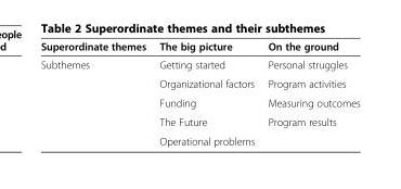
<table><thead><tr><td>Superordinate themes</td><td>The big picture</td><td>On the ground</td></tr></thead><tbody><tr><td rowspan="5">Subthemes</td><td>Getting started</td><td>Personal struggles</td></tr><tr><td>Organizational factors</td><td>Program activities</td></tr><tr><td>Funding</td><td>Measuring outcomes</td></tr><tr><td>The Future</td><td>Program results</td></tr><tr><td>Operational problems</td><td></td></tr></tbody></table>